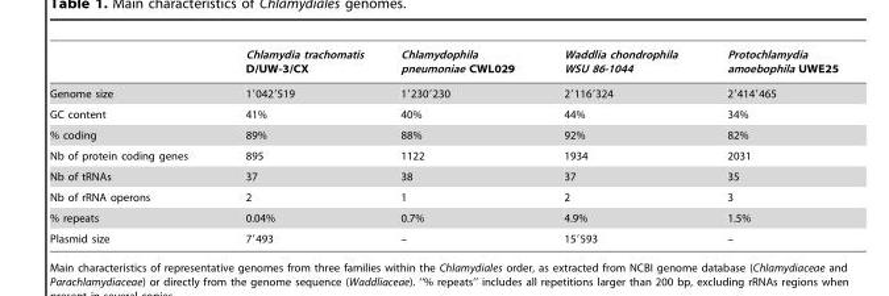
<table><thead><tr><td></td><td>Chlamydia trachomatis D/UW-3/CX</td><td>Chlamydophila pneumoniae CWL029</td><td>Waddlia chondrophila WSU 86-1044</td><td>Protochlamydia amoebophila UWE25</td></tr></thead><tbody><tr><td>Genome size</td><td>1′042′519</td><td>1′230′230</td><td>2′116′324</td><td>2′414′465</td></tr><tr><td>GC content</td><td>41%</td><td>40%</td><td>44%</td><td>34%</td></tr><tr><td>% coding</td><td>89%</td><td>88%</td><td>92%</td><td>82%</td></tr><tr><td>Nb of protein coding genes</td><td>895</td><td>1122</td><td>1934</td><td>2031</td></tr><tr><td>Nb of tRNAs</td><td>37</td><td>38</td><td>37</td><td>35</td></tr><tr><td>Nb of rRNA operons</td><td>2</td><td>1</td><td>2</td><td>3</td></tr><tr><td>% repeats</td><td>0.04%</td><td>0.7%</td><td>4.9%</td><td>1.5%</td></tr><tr><td>Plasmid size</td><td>7′493</td><td>–</td><td>15′593</td><td>–</td></tr></tbody></table>